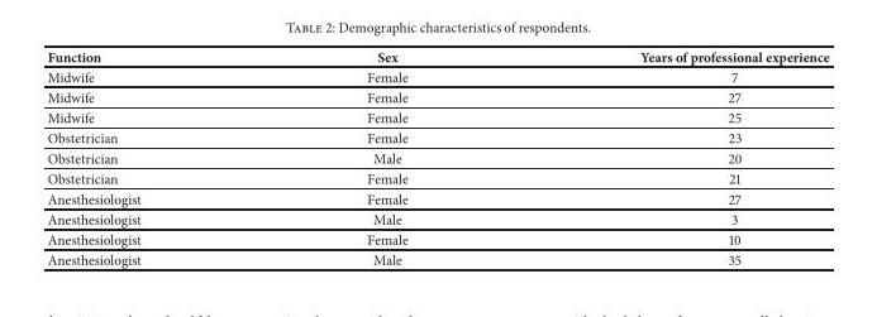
<table><thead><tr><td>Function</td><td>Sex</td><td>Years of professional experience</td></tr></thead><tbody><tr><td>Midwife</td><td>Female</td><td>7</td></tr><tr><td>Midwife</td><td>Female</td><td>27</td></tr><tr><td>Midwife</td><td>Female</td><td>25</td></tr><tr><td>Obstetrician</td><td>Female</td><td>23</td></tr><tr><td>Obstetrician</td><td>Male</td><td>20</td></tr><tr><td>Obstetrician</td><td>Female</td><td>21</td></tr><tr><td>Anesthesiologist</td><td>Female</td><td>27</td></tr><tr><td>Anesthesiologist</td><td>Male</td><td>3</td></tr><tr><td>Anesthesiologist</td><td>Female</td><td>10</td></tr><tr><td>Anesthesiologist</td><td>Male</td><td>35</td></tr></tbody></table>